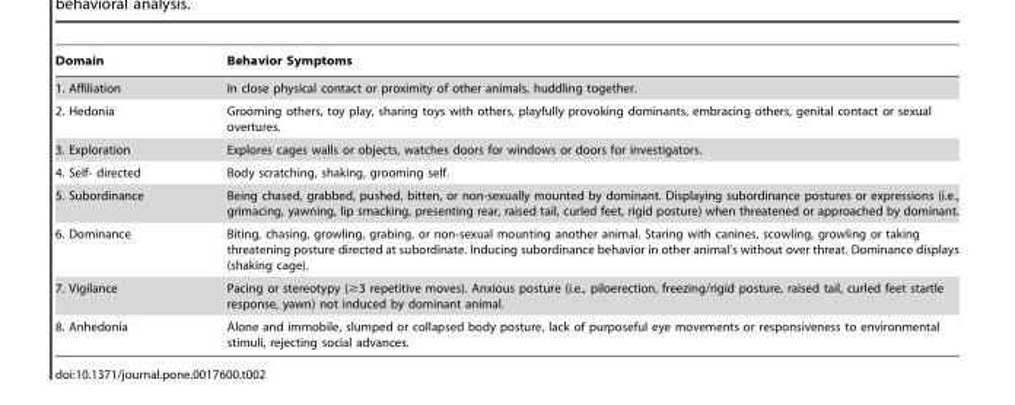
<table><thead><tr><td>Domain</td><td>Behavior Symptoms</td></tr></thead><tbody><tr><td>1. Affiliation</td><td>In close physical contact or proximity of other animals, huddling together.</td></tr><tr><td>2. Hedonia</td><td>Grooming others, toy play, sharing toys with others, playfully provoking dominants, embracing others, genital contact or sexual overtures.</td></tr><tr><td>3. Exploration</td><td>Explores cages walls or objects, watches doors for windows or doors for investigators.</td></tr><tr><td>4. Self- directed</td><td>Body scratching, shaking, grooming self.</td></tr><tr><td>5. Subordinance</td><td>Being chased, grabbed, pushed, bitten, or non-sexually mounted by dominant. Displaying subordinance postures or expressions (i.e., grimacing, yawning, lip smacking, presenting rear, raised tail, curled feet, rigid posture) when threatened or approached by dominant.</td></tr><tr><td>6. Dominance</td><td>Biting, chasing, growling, grabing, or non-sexual mounting another animal. Staring with canines, scowling, growling or taking threatening posture directed at subordinate. Inducing subordinance behavior in other animal’s without over threat. Dominance displays (shaking cage).</td></tr><tr><td>7. Vigilance</td><td>Pacing or stereotypy (≥3 repetitive moves). Anxious posture (i.e., piloerection, freezing/rigid posture, raised tail, curled feet startle response, yawn) not induced by dominant animal.</td></tr><tr><td>8. Anhedonia</td><td>Alone and immobile, slumped or collapsed body posture, lack of purposeful eye movements or responsiveness to environmental stimuli, rejecting social advances.</td></tr></tbody></table>